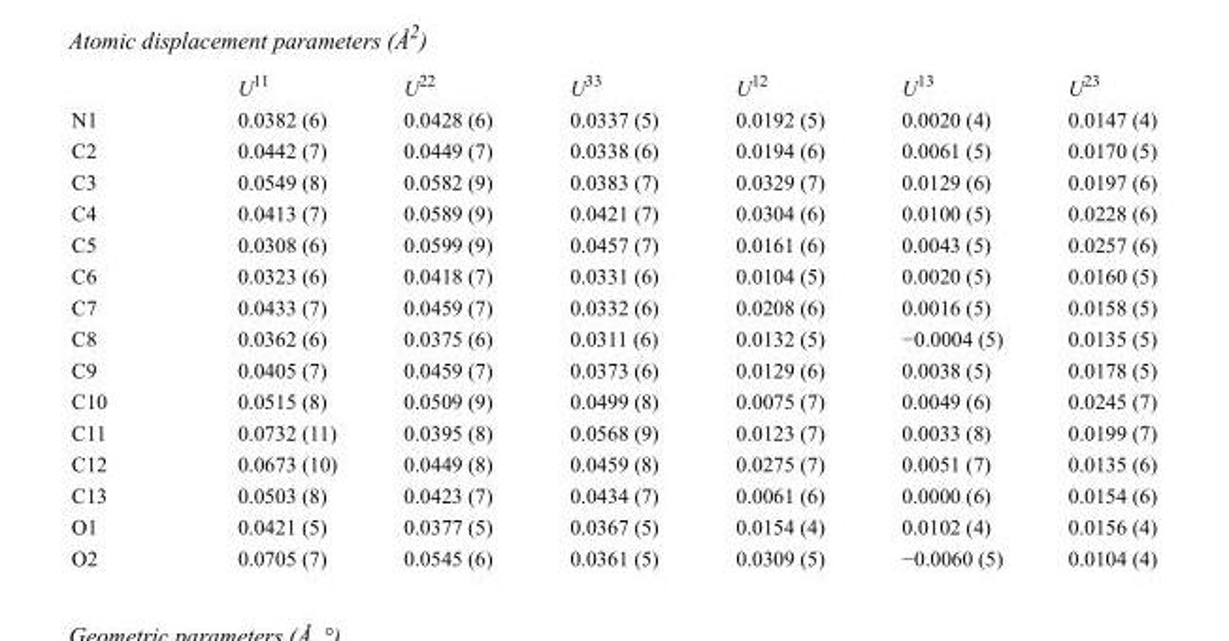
<table><thead><tr><td></td><td>U<sup>11</sup></td><td>U<sup>22</sup></td><td>U<sup>33</sup></td><td>U<sup>12</sup></td><td>U<sup>13</sup></td><td>U<sup>23</sup></td></tr></thead><tbody><tr><td>N1</td><td>0.0382 (6)</td><td>0.0428 (6)</td><td>0.0337 (5)</td><td>0.0192 (5)</td><td>0.0020 (4)</td><td>0.0147 (4)</td></tr><tr><td>C2</td><td>0.0442 (7)</td><td>0.0449 (7)</td><td>0.0338 (6)</td><td>0.0194 (6)</td><td>0.0061 (5)</td><td>0.0170 (5)</td></tr><tr><td>C3</td><td>0.0549 (8)</td><td>0.0582 (9)</td><td>0.0383 (7)</td><td>0.0329 (7)</td><td>0.0129 (6)</td><td>0.0197 (6)</td></tr><tr><td>C4</td><td>0.0413 (7)</td><td>0.0589 (9)</td><td>0.0421 (7)</td><td>0.0304 (6)</td><td>0.0100 (5)</td><td>0.0228 (6)</td></tr><tr><td>C5</td><td>0.0308 (6)</td><td>0.0599 (9)</td><td>0.0457 (7)</td><td>0.0161 (6)</td><td>0.0043 (5)</td><td>0.0257 (6)</td></tr><tr><td>C6</td><td>0.0323 (6)</td><td>0.0418 (7)</td><td>0.0331 (6)</td><td>0.0104 (5)</td><td>0.0020 (5)</td><td>0.0160 (5)</td></tr><tr><td>C7</td><td>0.0433 (7)</td><td>0.0459 (7)</td><td>0.0332 (6)</td><td>0.0208 (6)</td><td>0.0016 (5)</td><td>0.0158 (5)</td></tr><tr><td>C8</td><td>0.0362 (6)</td><td>0.0375 (6)</td><td>0.0311 (6)</td><td>0.0132 (5)</td><td>−0.0004 (5)</td><td>0.0135 (5)</td></tr><tr><td>C9</td><td>0.0405 (7)</td><td>0.0459 (7)</td><td>0.0373 (6)</td><td>0.0129 (6)</td><td>0.0038 (5)</td><td>0.0178 (5)</td></tr><tr><td>C10</td><td>0.0515 (8)</td><td>0.0509 (9)</td><td>0.0499 (8)</td><td>0.0075 (7)</td><td>0.0049 (6)</td><td>0.0245 (7)</td></tr><tr><td>C11</td><td>0.0732 (11)</td><td>0.0395 (8)</td><td>0.0568 (9)</td><td>0.0123 (7)</td><td>0.0033 (8)</td><td>0.0199 (7)</td></tr><tr><td>C12</td><td>0.0673 (10)</td><td>0.0449 (8)</td><td>0.0459 (8)</td><td>0.0275 (7)</td><td>0.0051 (7)</td><td>0.0135 (6)</td></tr><tr><td>C13</td><td>0.0503 (8)</td><td>0.0423 (7)</td><td>0.0434 (7)</td><td>0.0061 (6)</td><td>0.0000 (6)</td><td>0.0154 (6)</td></tr><tr><td>O1</td><td>0.0421 (5)</td><td>0.0377 (5)</td><td>0.0367 (5)</td><td>0.0154 (4)</td><td>0.0102 (4)</td><td>0.0156 (4)</td></tr><tr><td>O2</td><td>0.0705 (7)</td><td>0.0545 (6)</td><td>0.0361 (5)</td><td>0.0309 (5)</td><td>−0.0060 (5)</td><td>0.0104 (4)</td></tr></tbody></table>